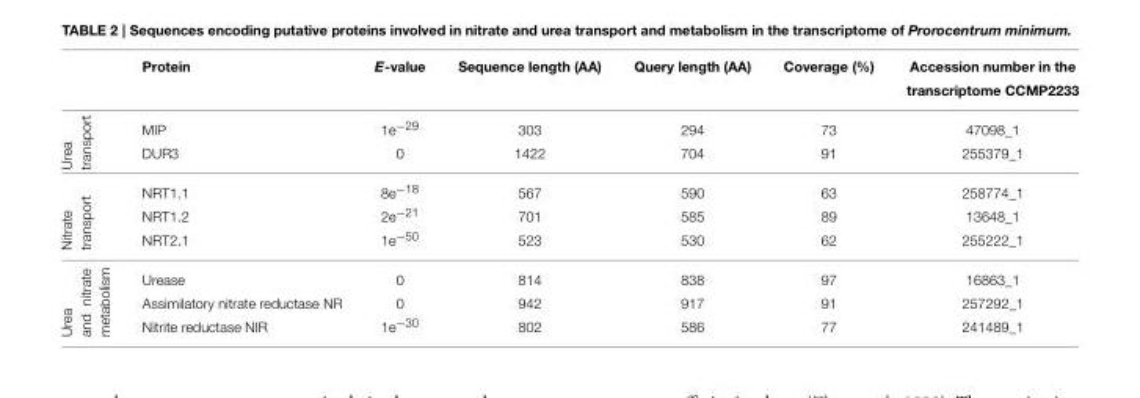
<table><thead><tr><td></td><td>Protein</td><td>E-value</td><td>Sequence length (AA)</td><td>Query length (AA)</td><td>Coverage (%)</td><td>Accession number in the transcriptome CCMP2233</td></tr></thead><tbody><tr><td rowspan="2">Urea transport</td><td>MIP</td><td>1e<sup>−29</sup></td><td>303</td><td>294</td><td>73</td><td>47098_1</td></tr><tr><td>DUR3</td><td>0</td><td>1422</td><td>704</td><td>91</td><td>255379_1</td></tr><tr><td rowspan="3">Nitrate transport</td><td>NRT1.1</td><td>8e<sup>−18</sup></td><td>567</td><td>590</td><td>63</td><td>258774_1</td></tr><tr><td>NRT1.2</td><td>2e<sup>−21</sup></td><td>701</td><td>585</td><td>89</td><td>13648_1</td></tr><tr><td>NRT2.1</td><td>1e<sup>−50</sup></td><td>523</td><td>530</td><td>62</td><td>255222_1</td></tr><tr><td rowspan="3">Urea and nitrate metabolism</td><td>Urease</td><td>0</td><td>814</td><td>838</td><td>97</td><td>16863_1</td></tr><tr><td>Assimilatory nitrate reductase NR</td><td>0</td><td>942</td><td>917</td><td>91</td><td>257292_1</td></tr><tr><td>Nitrite reductase NIR</td><td>1e<sup>−30</sup></td><td>802</td><td>586</td><td>77</td><td>241489_1</td></tr></tbody></table>